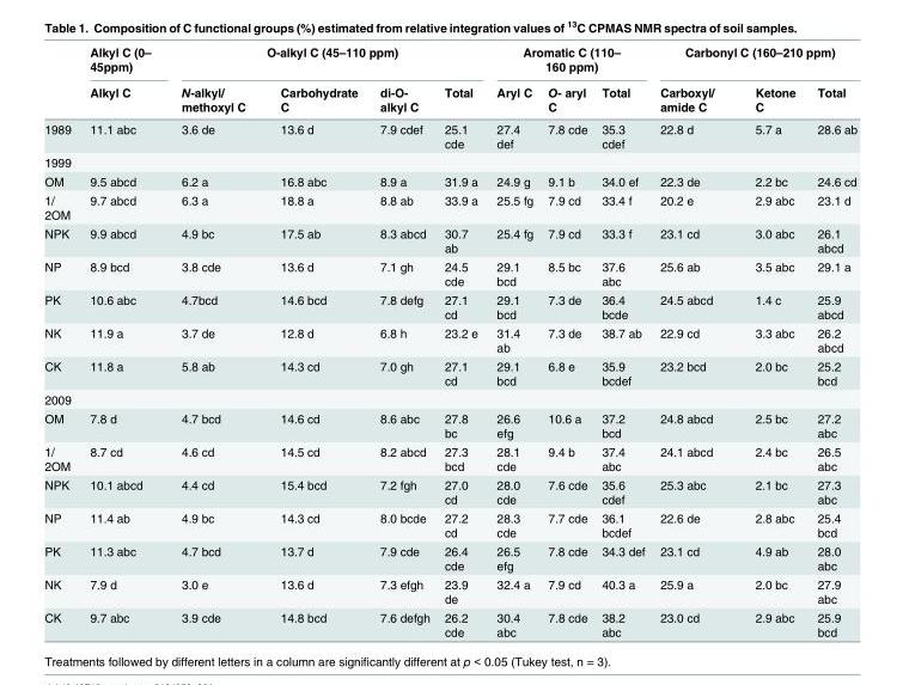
<table><thead><tr><td rowspan="2"></td><td rowspan="2">Alkyl C (0– 45ppm) Alkyl C</td><td colspan="4">O-alkyl C (45–110 ppm)</td><td colspan="3">Aromatic C (110– 160 ppm)</td><td colspan="3">Carbonyl C (160–210 ppm)</td></tr><tr><td>N-alkyl/ methoxyl C</td><td>Carbohydrate C</td><td>di-O- alkyl C</td><td>Total</td><td>Aryl C</td><td>O- aryl C</td><td>Total</td><td>Carboxyl/ amide C</td><td>Ketone C</td><td>Total</td></tr></thead><tbody><tr><td>1989</td><td>11.1 abc</td><td>3.6 de</td><td>13.6 d</td><td>7.9 cdef</td><td>25.1 cde</td><td>27.4 def</td><td>7.8 cde</td><td>35.3 cdef</td><td>22.8 d</td><td>5.7 a</td><td>28.6 ab</td></tr><tr><td colspan="12">1999</td></tr><tr><td>OM</td><td>9.5 abcd</td><td>6.2 a</td><td>16.8 abc</td><td>8.9 a</td><td>31.9 a</td><td>24.9 g</td><td>9.1 b</td><td>34.0 ef</td><td>22.3 de</td><td>2.2 bc</td><td>24.6 cd</td></tr><tr><td>1/ 2OM</td><td>9.7 abcd</td><td>6.3 a</td><td>18.8 a</td><td>8.8 ab</td><td>33.9 a</td><td>25.5 fg</td><td>7.9 cd</td><td>33.4 f</td><td>20.2 e</td><td>2.9 abc</td><td>23.1 d</td></tr><tr><td>NPK</td><td>9.9 abcd</td><td>4.9 bc</td><td>17.5 ab</td><td>8.3 abcd</td><td>30.7 ab</td><td>25.4 fg</td><td>7.9 cd</td><td>33.3 f</td><td>23.1 cd</td><td>3.0 abc</td><td>26.1 abcd</td></tr><tr><td>NP</td><td>8.9 bcd</td><td>3.8 cde</td><td>13.6 d</td><td>7.1 gh</td><td>24.5 cde</td><td>29.1 bcd</td><td>8.5 bc</td><td>37.6 abc</td><td>25.6 ab</td><td>3.5 abc</td><td>29.1 a</td></tr><tr><td>PK</td><td>10.6 abc</td><td>4.7bcd</td><td>14.6 bcd</td><td>7.8 defg</td><td>27.1 cd</td><td>29.1 bcd</td><td>7.3 de</td><td>36.4 bcde</td><td>24.5 abcd</td><td>1.4 c</td><td>25.9 abcd</td></tr><tr><td>NK</td><td>11.9 a</td><td>3.7 de</td><td>12.8 d</td><td>6.8 h</td><td>23.2 e</td><td>31.4 ab</td><td>7.3 de</td><td>38.7 ab</td><td>22.9 cd</td><td>3.3 abc</td><td>26.2 abcd</td></tr><tr><td>CK</td><td>11.8 a</td><td>5.8 ab</td><td>14.3 cd</td><td>7.0 gh</td><td>27.1 cd</td><td>29.1 bcd</td><td>6.8 e</td><td>35.9 bcdef</td><td>23.2 bcd</td><td>2.0 bc</td><td>25.2 bcd</td></tr><tr><td colspan="12">2009</td></tr><tr><td>OM</td><td>7.8 d</td><td>4.7 bcd</td><td>14.6 cd</td><td>8.6 abc</td><td>27.8 bc</td><td>26.6 efg</td><td>10.6 a</td><td>37.2 bcd</td><td>24.8 abcd</td><td>2.5 bc</td><td>27.2 abc</td></tr><tr><td>1/ 2OM</td><td>8.7 cd</td><td>4.6 cd</td><td>14.5 cd</td><td>8.2 abcd</td><td>27.3 bcd</td><td>28.1 cde</td><td>9.4 b</td><td>37.4 abc</td><td>24.1 abcd</td><td>2.4 bc</td><td>26.5 abc</td></tr><tr><td>NPK</td><td>10.1 abcd</td><td>4.4 cd</td><td>15.4 bcd</td><td>7.2 fgh</td><td>27.0 cd</td><td>28.0 cde</td><td>7.6 cde</td><td>35.6 cdef</td><td>25.3 abc</td><td>2.1 bc</td><td>27.3 abc</td></tr><tr><td>NP</td><td>11.4 ab</td><td>4.9 bc</td><td>14.3 cd</td><td>8.0 bcde</td><td>27.2 cd</td><td>28.3 cde</td><td>7.7 cde</td><td>36.1 bcdef</td><td>22.6 de</td><td>2.8 abc</td><td>25.4 bcd</td></tr><tr><td>PK</td><td>11.3 abc</td><td>4.7 bcd</td><td>13.7 d</td><td>7.9 cde</td><td>26.4 cde</td><td>26.5 efg</td><td>7.8 cde</td><td>34.3 def</td><td>23.1 cd</td><td>4.9 ab</td><td>28.0 abc</td></tr><tr><td>NK</td><td>7.9 d</td><td>3.0 e</td><td>13.6 d</td><td>7.3 efgh</td><td>23.9 de</td><td>32.4 a</td><td>7.9 cd</td><td>40.3 a</td><td>25.9 a</td><td>2.0 bc</td><td>27.9 abc</td></tr><tr><td>CK</td><td>9.7 abc</td><td>3.9 cde</td><td>14.8 bcd</td><td>7.6 defgh</td><td>26.2 cde</td><td>30.4 abc</td><td>7.8 cde</td><td>38.2 abc</td><td>23.0 cd</td><td>2.9 abc</td><td>25.9 bcd</td></tr></tbody></table>